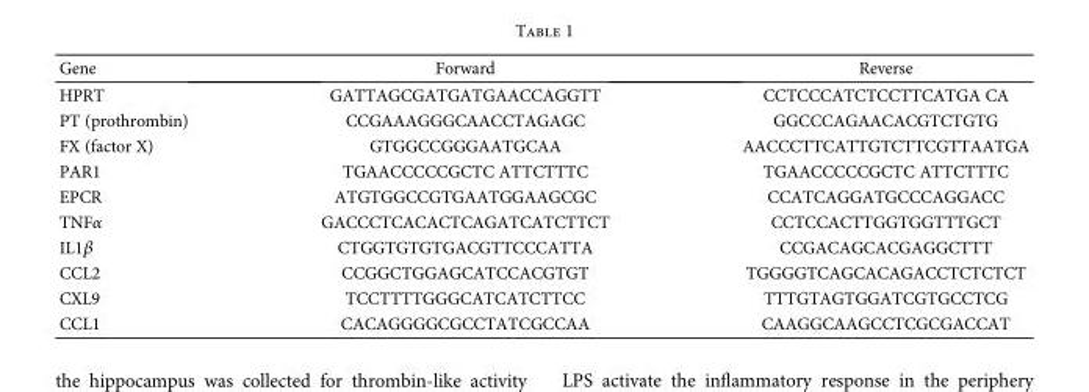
<table><thead><tr><td>Gene</td><td>Forward</td><td>Reverse</td></tr></thead><tbody><tr><td>HPRT</td><td>GATTAGCGATGATGAACCAGGTT</td><td>CCTCCCATCTCCTTCATGA CA</td></tr><tr><td>PT (prothrombin)</td><td>CCGAAAGGGCAACCTAGAGC</td><td>GGCCCAGAACACGTCTGTG</td></tr><tr><td>FX (factor X)</td><td>GTGGCCGGGAATGCAA</td><td>AACCCTTCATTGTCTTCGTTAATGA</td></tr><tr><td>PAR1</td><td>TGAACCCCCGCTC ATTCTTTC</td><td>TGAACCCCCGCTC ATTCTTTC</td></tr><tr><td>EPCR</td><td>ATGTGGCCGTGAATGGAAGCGC</td><td>CCATCAGGATGCCCAGGACC</td></tr><tr><td>TNFα</td><td>GACCCTCACACTCAGATCATCTTCT</td><td>CCTCCACTTGGTGGTTTGCT</td></tr><tr><td>IL1β</td><td>CTGGTGTGTGACGTTCCCATTA</td><td>CCGACAGCACGAGGCTTT</td></tr><tr><td>CCL2</td><td>CCGGCTGGAGCATCCACGTGT</td><td>TGGGGTCAGCACAGACCTCTCTCT</td></tr><tr><td>CXL9</td><td>TCCTTTTGGGCATCATCTTCC</td><td>TTTGTAGTGGATCGTGCCTCG</td></tr><tr><td>CCL1</td><td>CACAGGGGCGCCTATCGCCAA</td><td>CAAGGCAAGCCTCGCGACCAT</td></tr></tbody></table>